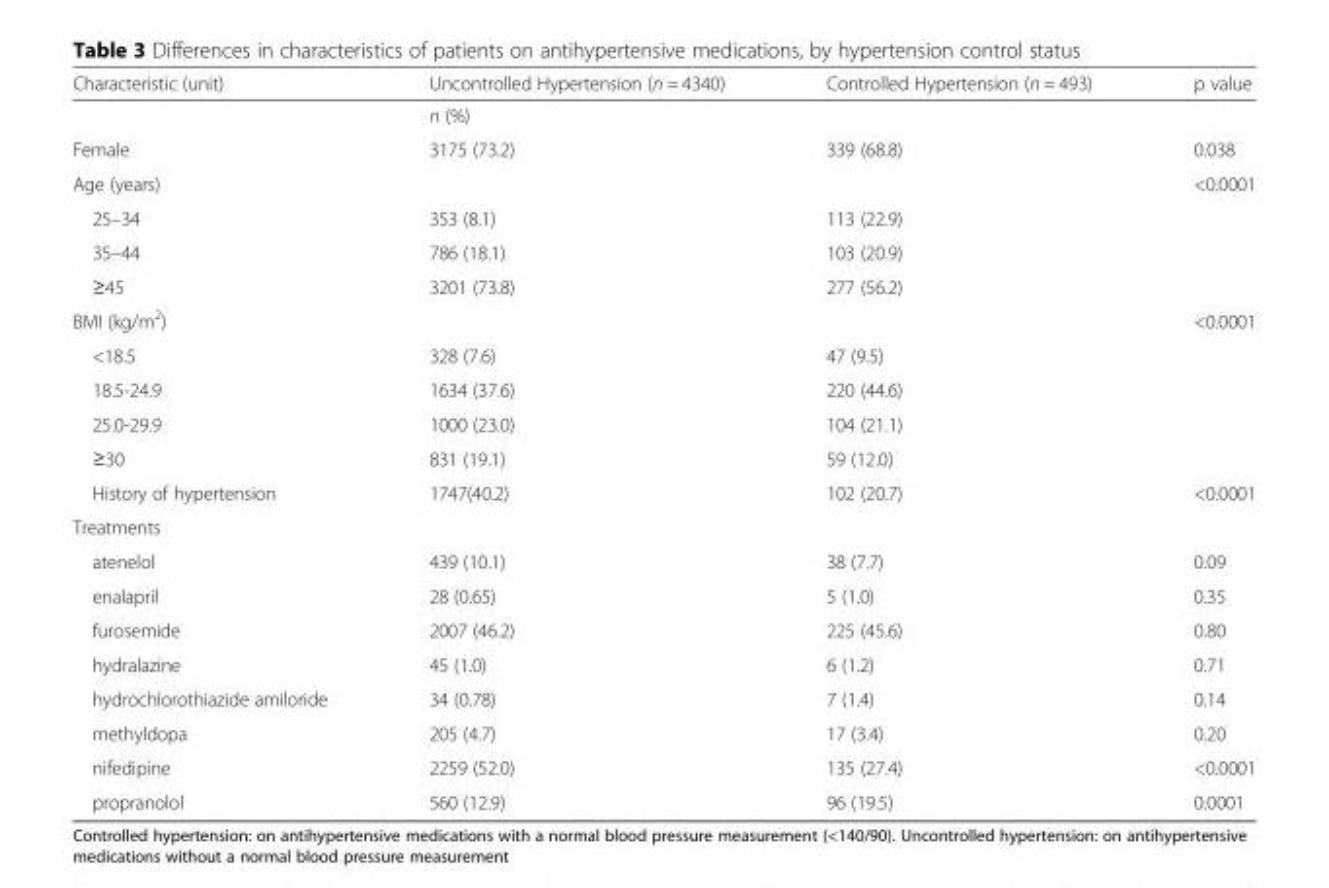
<table><thead><tr><td>Characteristic (unit)</td><td>Uncontrolled Hypertension (n = 4340)</td><td>Controlled Hypertension (n = 493)</td><td>p value</td></tr></thead><tbody><tr><td></td><td colspan="2">n (%)</td><td></td></tr><tr><td>Female</td><td>3175 (73.2)</td><td>339 (68.8)</td><td>0.038</td></tr><tr><td>Age (years)</td><td></td><td></td><td>&lt;0.0001</td></tr><tr><td>25–34</td><td>353 (8.1)</td><td>113 (22.9)</td><td></td></tr><tr><td>35–44</td><td>786 (18.1)</td><td>103 (20.9)</td><td></td></tr><tr><td>≥45</td><td>3201 (73.8)</td><td>277 (56.2)</td><td></td></tr><tr><td>BMI (kg/m<sup>2</sup>)</td><td></td><td></td><td>&lt;0.0001</td></tr><tr><td>&lt;18.5</td><td>328 (7.6)</td><td>47 (9.5)</td><td></td></tr><tr><td>18.5-24.9</td><td>1634 (37.6)</td><td>220 (44.6)</td><td></td></tr><tr><td>25.0-29.9</td><td>1000 (23.0)</td><td>104 (21.1)</td><td></td></tr><tr><td>≥30</td><td>831 (19.1)</td><td>59 (12.0)</td><td></td></tr><tr><td>History of hypertension</td><td>1747(40.2)</td><td>102 (20.7)</td><td>&lt;0.0001</td></tr><tr><td colspan="4">Treatments</td></tr><tr><td>atenelol</td><td>439 (10.1)</td><td>38 (7.7)</td><td>0.09</td></tr><tr><td>enalapril</td><td>28 (0.65)</td><td>5 (1.0)</td><td>0.35</td></tr><tr><td>furosemide</td><td>2007 (46.2)</td><td>225 (45.6)</td><td>0.80</td></tr><tr><td>hydralazine</td><td>45 (1.0)</td><td>6 (1.2)</td><td>0.71</td></tr><tr><td>hydrochlorothiazide amiloride</td><td>34 (0.78)</td><td>7 (1.4)</td><td>0.14</td></tr><tr><td>methyldopa</td><td>205 (4.7)</td><td>17 (3.4)</td><td>0.20</td></tr><tr><td>nifedipine</td><td>2259 (52.0)</td><td>135 (27.4)</td><td>&lt;0.0001</td></tr><tr><td>propranolol</td><td>560 (12.9)</td><td>96 (19.5)</td><td>0.0001</td></tr></tbody></table>